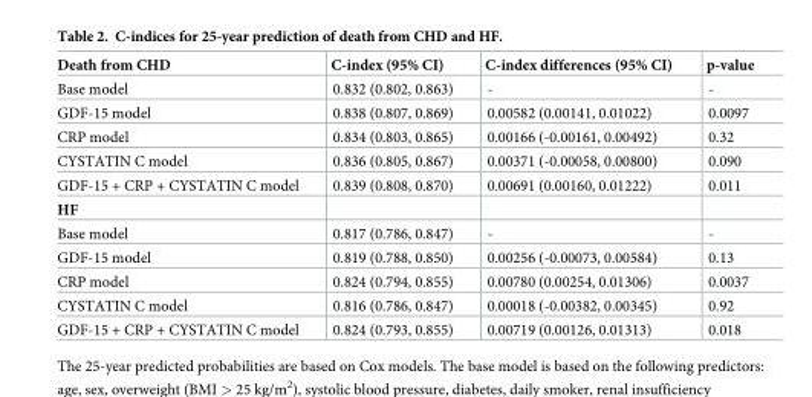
<table><thead><tr><td>Death from CHD</td><td>C-index (95% CI)</td><td>C-index differences (95% CI)</td><td>p-value</td></tr></thead><tbody><tr><td>Base model</td><td>0.832 (0.802, 0.863)</td><td>-</td><td>-</td></tr><tr><td>GDF-15 model</td><td>0.838 (0.807, 0.869)</td><td>0.00582 (0.00141, 0.01022)</td><td>0.0097</td></tr><tr><td>CRP model</td><td>0.834 (0.803, 0.865)</td><td>0.00166 (-0.00161, 0.00492)</td><td>0.32</td></tr><tr><td>CYSTATIN C model</td><td>0.836 (0.805, 0.867)</td><td>0.00371 (-0.00058, 0.00800)</td><td>0.090</td></tr><tr><td>GDF-15 + CRP + CYSTATIN C model</td><td>0.839 (0.808, 0.870)</td><td>0.00691 (0.00160, 0.01222)</td><td>0.011</td></tr><tr><td colspan="4">HF</td></tr><tr><td>Base model</td><td>0.817 (0.786, 0.847)</td><td>-</td><td>-</td></tr><tr><td>GDF-15 model</td><td>0.819 (0.788, 0.850)</td><td>0.00256 (-0.00073, 0.00584)</td><td>0.13</td></tr><tr><td>CRP model</td><td>0.824 (0.794, 0.855)</td><td>0.00780 (0.00254, 0.01306)</td><td>0.0037</td></tr><tr><td>CYSTATIN C model</td><td>0.816 (0.786, 0.847)</td><td>0.00018 (-0.00382, 0.00345)</td><td>0.92</td></tr><tr><td>GDF-15 + CRP + CYSTATIN C model</td><td>0.824 (0.793, 0.855)</td><td>0.00719 (0.00126, 0.01313)</td><td>0.018</td></tr></tbody></table>